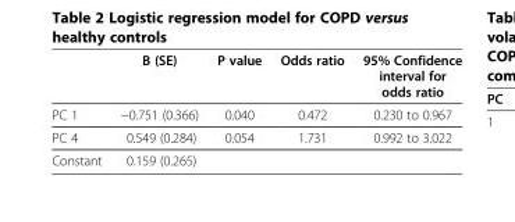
<table><thead><tr><td></td><td>B (SE)</td><td>P value</td><td>Odds ratio</td><td>95% Confidence interval for odds ratio</td></tr></thead><tbody><tr><td>PC 1</td><td>−0.751 (0.366)</td><td>0.040</td><td>0.472</td><td>0.230 to 0.967</td></tr><tr><td>PC 4</td><td>0.549 (0.284)</td><td>0.054</td><td>1.731</td><td>0.992 to 3.022</td></tr><tr><td>Constant</td><td>0.159 (0.265)</td><td colspan="3"></td></tr></tbody></table>